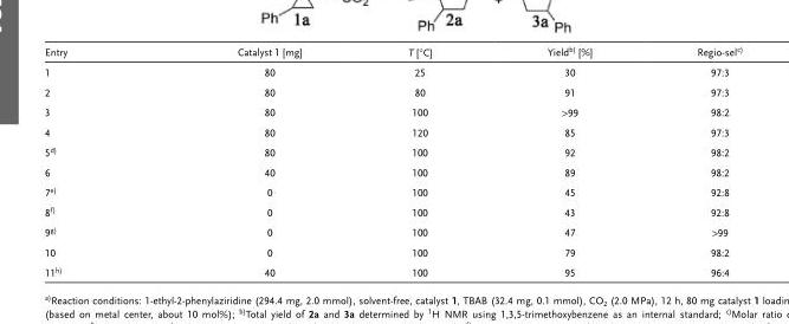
<table><thead><tr><td>Entry</td><td>Catalyst 1 [mg]</td><td>T [°C]</td><td>Yieldb) [%]</td><td>Regio-selc)</td></tr></thead><tbody><tr><td>1</td><td>80</td><td>25</td><td>30</td><td>97:3</td></tr><tr><td>2</td><td>80</td><td>80</td><td>91</td><td>97:3</td></tr><tr><td>3</td><td>80</td><td>100</td><td>&gt;99</td><td>98:2</td></tr><tr><td>4</td><td>80</td><td>120</td><td>85</td><td>97:3</td></tr><tr><td>5d)</td><td>80</td><td>100</td><td>92</td><td>98:2</td></tr><tr><td>6</td><td>40</td><td>100</td><td>89</td><td>98:2</td></tr><tr><td>7e)</td><td>0</td><td>100</td><td>45</td><td>92:8</td></tr><tr><td>8f)</td><td>0</td><td>100</td><td>43</td><td>92:8</td></tr><tr><td>9g)</td><td>0</td><td>100</td><td>47</td><td>&gt;99</td></tr><tr><td>10</td><td>0</td><td>100</td><td>79</td><td>98:2</td></tr><tr><td>11h)</td><td>40</td><td>100</td><td>95</td><td>96:4</td></tr></tbody></table>